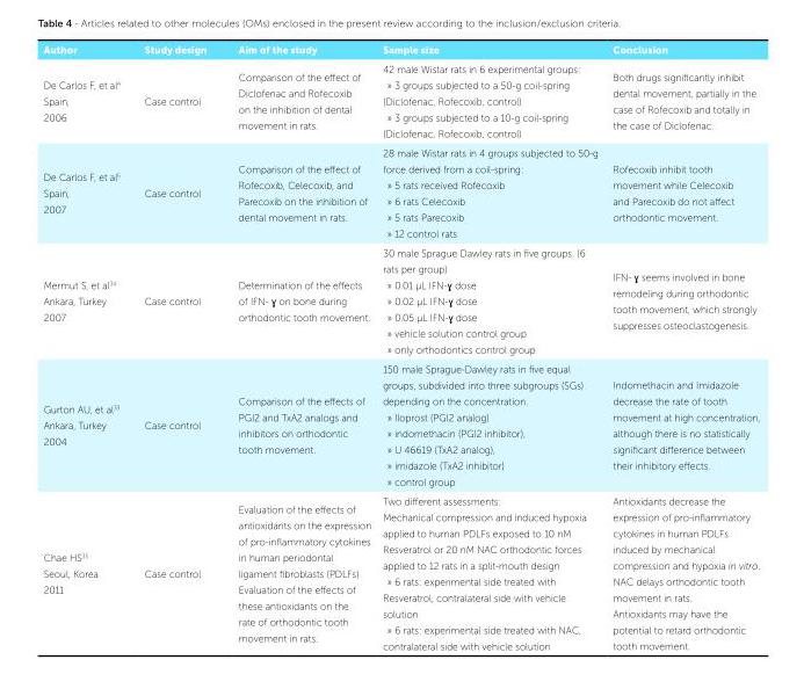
<table><thead><tr><td>Author</td><td>Study design</td><td>Aim of the study</td><td>Sample size</td><td>Conclusion</td></tr></thead><tbody><tr><td>De Carlos F, et al<sup>4</sup> Spain, 2006</td><td>Case control</td><td>Comparison of the effect of Diclofenac and Rofecoxib on the inhibition of dental movement in rats.</td><td>42 male Wistar rats in 6 experimental groups: » 3 groups subjected to a 50-g coil-spring (Diclofenac, Rofecoxib, control) » 3 groups subjected to a 10-g coil-spring (Diclofenac, Rofecoxib, control)</td><td>Both drugs significantly inhibit dental movement, partially in the case of Rofecoxib and totally in the case of Diclofenac.</td></tr><tr><td>De Carlos F, et al<sup>5</sup> Spain, 2007</td><td>Case control</td><td>Comparison of the effect of Rofecoxib, Celecoxib, and Parecoxib on the inhibition of dental movement in rats.</td><td>28 male Wistar rats in 4 groups subjected to 50-g force derived from a coil-spring: » 5 rats received Rofecoxib » 6 rats Celecoxib » 5 rats Parecoxib » 12 control rats</td><td>Rofecoxib inhibit tooth movement while Celecoxib and Parecoxib do not affect orthodontic movement.</td></tr><tr><td>Mermut S, et al<sup>34</sup> Ankara, Turkey 2007</td><td>Case control</td><td>Determination of the effects of IFN- ɣ on bone during orthodontic tooth movement.</td><td>30 male Sprague Dawley rats in five groups. (6 rats per group) » 0.01 µL IFN-ɣ dose » 0.02 µL IFN-ɣ dose » 0.05 µL IFN-ɣ dose » vehicle solution control group » only orthodontics control group</td><td>IFN- ɣ seems involved in bone remodeling during orthodontic tooth movement, which strongly suppresses osteoclastogenesis.</td></tr><tr><td>Gurton AU, et al<sup>33</sup> Ankara, Turkey 2004</td><td>Case control</td><td>Comparison of the effects of PGI2 and TxA2 analogs and inhibitors on orthodontic tooth movement.</td><td>150 male Sprague-Dawley rats in five equal groups, subdivided into three subgroups (SGs) depending on the concentration. » Iloprost (PGI2 analog) » indomethacin (PGI2 inhibitor), » U 46619 (TxA2 analog), » imidazole (TxA2 inhibitor) » control group</td><td>Indomethacin and Imidazole decrease the rate of tooth movement at high concentration, although there is no statistically significant difference between their inhibitory effects.</td></tr><tr><td>Chae HS<sup>35</sup> Seoul, Korea 2011</td><td>Case control</td><td>Evaluation of the effects of antioxidants on the expression of pro-inflammatory cytokines in human periodontal ligament fibroblasts (PDLFs) Evaluation of the effects of these antioxidants on the rate of orthodontic tooth movement in rats.</td><td>Two different assessments: Mechanical compression and induced hypoxia applied to human PDLFs exposed to 10 nM Resveratrol or 20 nM NAC orthodontic forces applied to 12 rats in a split-mouth design » 6 rats: experimental side treated with Resveratrol, contralateral side with vehicle solution » 6 rats: experimental side treated with NAC, contralateral side with vehicle solution</td><td>Antioxidants decrease the expression of pro-inflammatory cytokines in human PDLFs induced by mechanical compression and hypoxia in vitro. NAC delays orthodontic tooth movement in rats. Antioxidants may have the potential to retard orthodontic tooth movement.</td></tr></tbody></table>